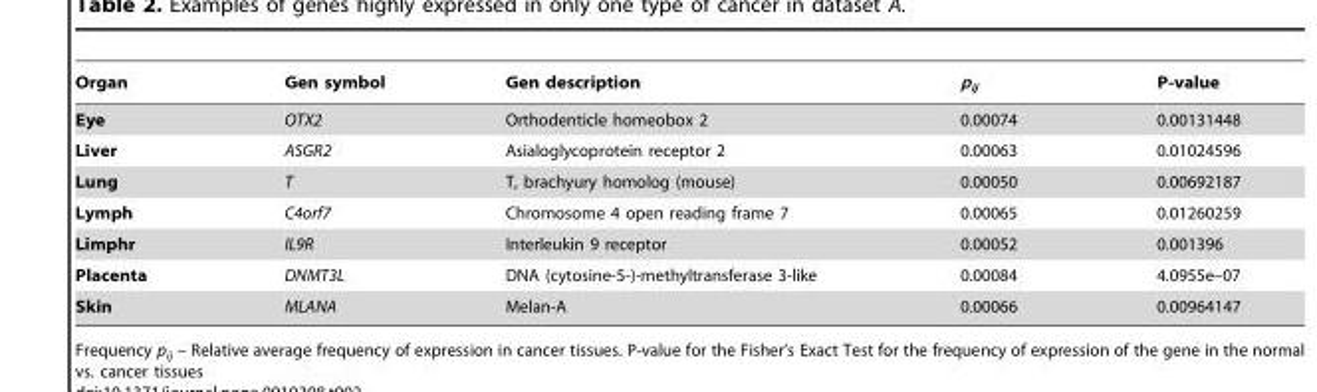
<table><thead><tr><td>Organ</td><td>Gen symbol</td><td>Gen description</td><td>p<sub>ij</sub></td><td>P-value</td></tr></thead><tbody><tr><td>Eye</td><td>OTX2</td><td>Orthodenticle homeobox 2</td><td>0.00074</td><td>0.00131448</td></tr><tr><td>Liver</td><td>ASGR2</td><td>Asialoglycoprotein receptor 2</td><td>0.00063</td><td>0.01024596</td></tr><tr><td>Lung</td><td>T</td><td>T, brachyury homolog (mouse)</td><td>0.00050</td><td>0.00692187</td></tr><tr><td>Lymph</td><td>C4orf7</td><td>Chromosome 4 open reading frame 7</td><td>0.00065</td><td>0.01260259</td></tr><tr><td>Limphr</td><td>IL9R</td><td>Interleukin 9 receptor</td><td>0.00052</td><td>0.001396</td></tr><tr><td>Placenta</td><td>DNMT3L</td><td>DNA (cytosine-5-)-methyltransferase 3-like</td><td>0.00084</td><td>4.0955e–07</td></tr><tr><td>Skin</td><td>MLANA</td><td>Melan-A</td><td>0.00066</td><td>0.00964147</td></tr></tbody></table>